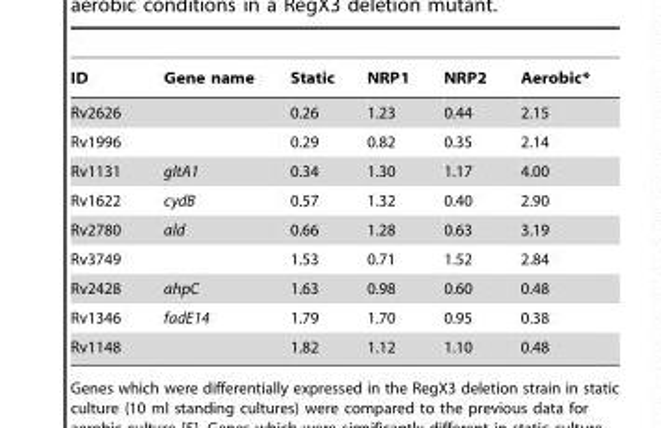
<table><thead><tr><td>ID</td><td>Gene name</td><td>Static</td><td>NRP1</td><td>NRP2</td><td>Aerobic*</td></tr></thead><tbody><tr><td>Rv2626</td><td></td><td>0.26</td><td>1.23</td><td>0.44</td><td>2.15</td></tr><tr><td>Rv1996</td><td></td><td>0.29</td><td>0.82</td><td>0.35</td><td>2.14</td></tr><tr><td>Rv1131</td><td>gltA1</td><td>0.34</td><td>1.30</td><td>1.17</td><td>4.00</td></tr><tr><td>Rv1622</td><td>cydB</td><td>0.57</td><td>1.32</td><td>0.40</td><td>2.90</td></tr><tr><td>Rv2780</td><td>ald</td><td>0.66</td><td>1.28</td><td>0.63</td><td>3.19</td></tr><tr><td>Rv3749</td><td></td><td>1.53</td><td>0.71</td><td>1.52</td><td>2.84</td></tr><tr><td>Rv2428</td><td>ahpC</td><td>1.63</td><td>0.98</td><td>0.60</td><td>0.48</td></tr><tr><td>Rv1346</td><td>fadE14</td><td>1.79</td><td>1.70</td><td>0.95</td><td>0.38</td></tr><tr><td>Rv1148</td><td></td><td>1.82</td><td>1.12</td><td>1.10</td><td>0.48</td></tr></tbody></table>